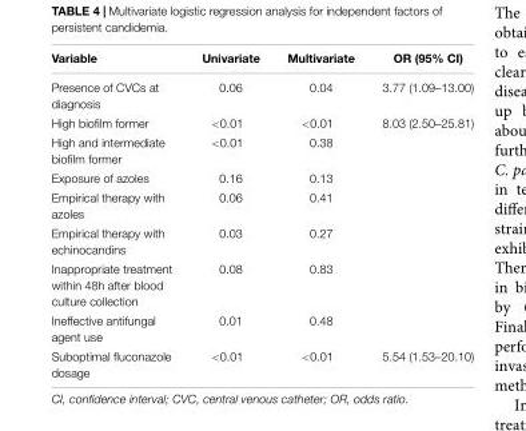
<table><thead><tr><td>Variable</td><td>Univariate</td><td>Multivariate</td><td>OR (95% CI)</td></tr></thead><tbody><tr><td>Presence of CVCs at diagnosis</td><td>0.06</td><td>0.04</td><td>3.77 (1.09–13.00)</td></tr><tr><td>High biofilm former</td><td>&lt;0.01</td><td>&lt;0.01</td><td>8.03 (2.50–25.81)</td></tr><tr><td>High and intermediate biofilm former</td><td>&lt;0.01</td><td>0.38</td><td></td></tr><tr><td>Exposure of azoles</td><td>0.16</td><td>0.13</td><td></td></tr><tr><td>Empirical therapy with azoles</td><td>0.06</td><td>0.41</td><td></td></tr><tr><td>Empirical therapy with echinocandins</td><td>0.03</td><td>0.27</td><td></td></tr><tr><td>Inappropriate treatment within 48h after blood culture collection</td><td>0.08</td><td>0.83</td><td></td></tr><tr><td>Ineffective antifungal agent use</td><td>0.01</td><td>0.48</td><td></td></tr><tr><td>Suboptimal fluconazole dosage</td><td>&lt;0.01</td><td>&lt;0.01</td><td>5.54 (1.53–20.10)</td></tr></tbody></table>